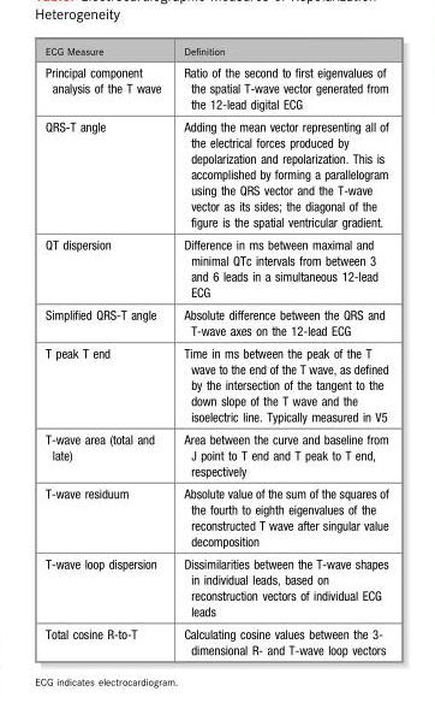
<table><thead><tr><td>ECG Measure</td><td>Definition</td></tr></thead><tbody><tr><td>Principal component analysis of the T wave</td><td>Ratio of the second to first eigenvalues of the spatial T-wave vector generated from the 12-lead digital ECG</td></tr><tr><td>QRS-T angle</td><td>Adding the mean vector representing all of the electrical forces produced by depolarization and repolarization. This is accomplished by forming a parallelogram using the QRS vector and the T-wave vector as its sides; the diagonal of the figure is the spatial ventricular gradient.</td></tr><tr><td>QT dispersion</td><td>Difference in ms between maximal and minimal QTc intervals from between 3 and 6 leads in a simultaneous 12-lead ECG</td></tr><tr><td>Simplified QRS-T angle</td><td>Absolute difference between the QRS and T-wave axes on the 12-lead ECG</td></tr><tr><td>T peak T end</td><td>Time in ms between the peak of the T wave to the end of the T wave, as defined by the intersection of the tangent to the down slope of the T wave and the isoelectric line. Typically measured in V5</td></tr><tr><td>T-wave area (total and late)</td><td>Area between the curve and baseline from J point to T end and T peak to T end, respectively</td></tr><tr><td>T-wave residuum</td><td>Absolute value of the sum of the squares of the fourth to eighth eigenvalues of the reconstructed T wave after singular value decomposition</td></tr><tr><td>T-wave loop dispersion</td><td>Dissimilarities between the T-wave shapes in individual leads, based on reconstruction vectors of individual ECG leads</td></tr><tr><td>Total cosine R-to-T</td><td>Calculating cosine values between the 3- dimensional R- and T-wave loop vectors</td></tr></tbody></table>